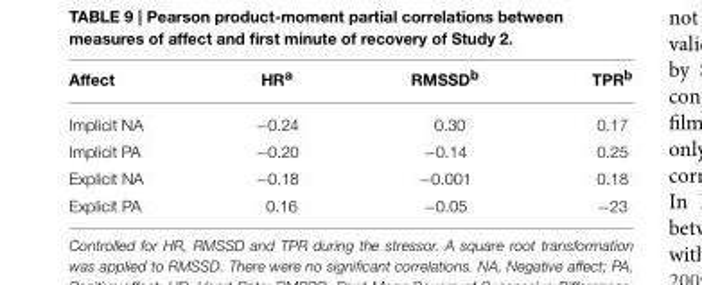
<table><thead><tr><td>Affect</td><td>HR<sup>a</sup></td><td>RMSSD<sup>b</sup></td><td>TPR<sup>b</sup></td></tr></thead><tbody><tr><td>Implicit NA</td><td>−0.24</td><td>0.30</td><td>0.17</td></tr><tr><td>Implicit PA</td><td>−0.20</td><td>−0.14</td><td>0.25</td></tr><tr><td>Explicit NA</td><td>−0.18</td><td>−0.001</td><td>0.18</td></tr><tr><td>Explicit PA</td><td>0.16</td><td>−0.05</td><td>−23</td></tr></tbody></table>